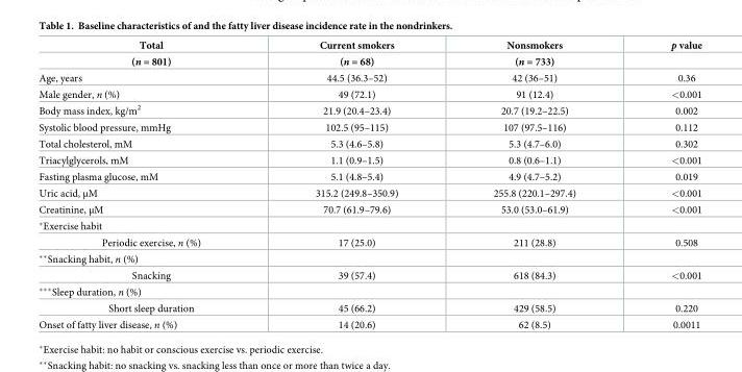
<table><thead><tr><td rowspan="2">Total (n = 801)</td><td rowspan="2">Current smokers (n = 68)</td><td rowspan="2">Nonsmokers (n = 733)</td><td rowspan="2">p value</td></tr><tr></tr></thead><tbody><tr><td>Age, years</td><td>44.5 (36.3–52)</td><td>42 (36–51)</td><td>0.36</td></tr><tr><td>Male gender, n (%)</td><td>49 (72.1)</td><td>91 (12.4)</td><td>&lt;0.001</td></tr><tr><td>Body mass index, kg/m<sup>2</sup></td><td>21.9 (20.4–23.4)</td><td>20.7 (19.2–22.5)</td><td>0.002</td></tr><tr><td>Systolic blood pressure, mmHg</td><td>102.5 (95–115)</td><td>107 (97.5–116)</td><td>0.112</td></tr><tr><td>Total cholesterol, mM</td><td>5.3 (4.6–5.8)</td><td>5.3 (4.7–6.0)</td><td>0.302</td></tr><tr><td>Triacylglycerols, mM</td><td>1.1 (0.9–1.5)</td><td>0.8 (0.6–1.1)</td><td>&lt;0.001</td></tr><tr><td>Fasting plasma glucose, mM</td><td>5.1 (4.8–5.4)</td><td>4.9 (4.7–5.2)</td><td>0.019</td></tr><tr><td>Uric acid, μM</td><td>315.2 (249.8–350.9)</td><td>255.8 (220.1–297.4)</td><td>&lt;0.001</td></tr><tr><td>Creatinine, μM</td><td>70.7 (61.9–79.6)</td><td>53.0 (53.0–61.9)</td><td>&lt;0.001</td></tr><tr><td colspan="4">*Exercise habit</td></tr><tr><td>Periodic exercise, n (%)</td><td>17 (25.0)</td><td>211 (28.8)</td><td>0.508</td></tr><tr><td colspan="4">**Snacking habit, n (%)</td></tr><tr><td>Snacking</td><td>39 (57.4)</td><td>618 (84.3)</td><td>&lt;0.001</td></tr><tr><td colspan="4">***Sleep duration, n (%)</td></tr><tr><td>Short sleep duration</td><td>45 (66.2)</td><td>429 (58.5)</td><td>0.220</td></tr><tr><td>Onset of fatty liver disease, n (%)</td><td>14 (20.6)</td><td>62 (8.5)</td><td>0.0011</td></tr></tbody></table>